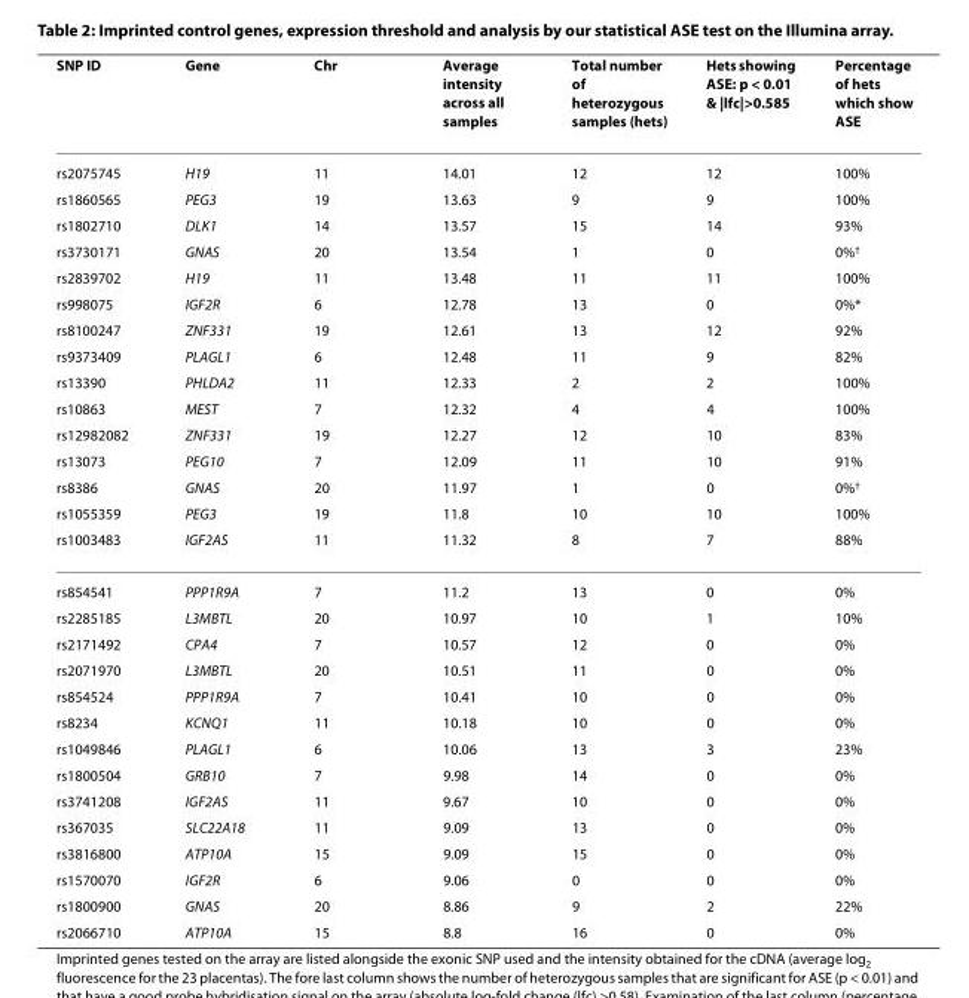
<table><thead><tr><td>SNP ID</td><td>Gene</td><td>Chr</td><td>Average intensity across all samples</td><td>Total number of heterozygous samples (hets)</td><td>Hets showing ASE: p &lt; 0.01 &amp; |lfc|&gt;0.585</td><td>Percentage of hets which show ASE</td></tr></thead><tbody><tr><td>rs2075745</td><td>H19</td><td>11</td><td>14.01</td><td>12</td><td>12</td><td>100%</td></tr><tr><td>rs1860565</td><td>PEG3</td><td>19</td><td>13.63</td><td>9</td><td>9</td><td>100%</td></tr><tr><td>rs1802710</td><td>DLK1</td><td>14</td><td>13.57</td><td>15</td><td>14</td><td>93%</td></tr><tr><td>rs3730171</td><td>GNAS</td><td>20</td><td>13.54</td><td>1</td><td>0</td><td>0%<sup>†</sup></td></tr><tr><td>rs2839702</td><td>H19</td><td>11</td><td>13.48</td><td>11</td><td>11</td><td>100%</td></tr><tr><td>rs998075</td><td>IGF2R</td><td>6</td><td>12.78</td><td>13</td><td>0</td><td>0%*</td></tr><tr><td>rs8100247</td><td>ZNF331</td><td>19</td><td>12.61</td><td>13</td><td>12</td><td>92%</td></tr><tr><td>rs9373409</td><td>PLAGL1</td><td>6</td><td>12.48</td><td>11</td><td>9</td><td>82%</td></tr><tr><td>rs13390</td><td>PHLDA2</td><td>11</td><td>12.33</td><td>2</td><td>2</td><td>100%</td></tr><tr><td>rs10863</td><td>MEST</td><td>7</td><td>12.32</td><td>4</td><td>4</td><td>100%</td></tr><tr><td>rs12982082</td><td>ZNF331</td><td>19</td><td>12.27</td><td>12</td><td>10</td><td>83%</td></tr><tr><td>rs13073</td><td>PEG10</td><td>7</td><td>12.09</td><td>11</td><td>10</td><td>91%</td></tr><tr><td>rs8386</td><td>GNAS</td><td>20</td><td>11.97</td><td>1</td><td>0</td><td>0%<sup>†</sup></td></tr><tr><td>rs1055359</td><td>PEG3</td><td>19</td><td>11.8</td><td>10</td><td>10</td><td>100%</td></tr><tr><td>rs1003483</td><td>IGF2AS</td><td>11</td><td>11.32</td><td>8</td><td>7</td><td>88%</td></tr><tr><td>rs854541</td><td>PPP1R9A</td><td>7</td><td>11.2</td><td>13</td><td>0</td><td>0%</td></tr><tr><td>rs2285185</td><td>L3MBTL</td><td>20</td><td>10.97</td><td>10</td><td>1</td><td>10%</td></tr><tr><td>rs2171492</td><td>CPA4</td><td>7</td><td>10.57</td><td>12</td><td>0</td><td>0%</td></tr><tr><td>rs2071970</td><td>L3MBTL</td><td>20</td><td>10.51</td><td>11</td><td>0</td><td>0%</td></tr><tr><td>rs854524</td><td>PPP1R9A</td><td>7</td><td>10.41</td><td>10</td><td>0</td><td>0%</td></tr><tr><td>rs8234</td><td>KCNQ1</td><td>11</td><td>10.18</td><td>10</td><td>0</td><td>0%</td></tr><tr><td>rs1049846</td><td>PLAGL1</td><td>6</td><td>10.06</td><td>13</td><td>3</td><td>23%</td></tr><tr><td>rs1800504</td><td>GRB10</td><td>7</td><td>9.98</td><td>14</td><td>0</td><td>0%</td></tr><tr><td>rs3741208</td><td>IGF2AS</td><td>11</td><td>9.67</td><td>10</td><td>0</td><td>0%</td></tr><tr><td>rs367035</td><td>SLC22A18</td><td>11</td><td>9.09</td><td>13</td><td>0</td><td>0%</td></tr><tr><td>rs3816800</td><td>ATP10A</td><td>15</td><td>9.09</td><td>15</td><td>0</td><td>0%</td></tr><tr><td>rs1570070</td><td>IGF2R</td><td>6</td><td>9.06</td><td>0</td><td>0</td><td>0%</td></tr><tr><td>rs1800900</td><td>GNAS</td><td>20</td><td>8.86</td><td>9</td><td>2</td><td>22%</td></tr><tr><td>rs2066710</td><td>ATP10A</td><td>15</td><td>8.8</td><td>16</td><td>0</td><td>0%</td></tr></tbody></table>